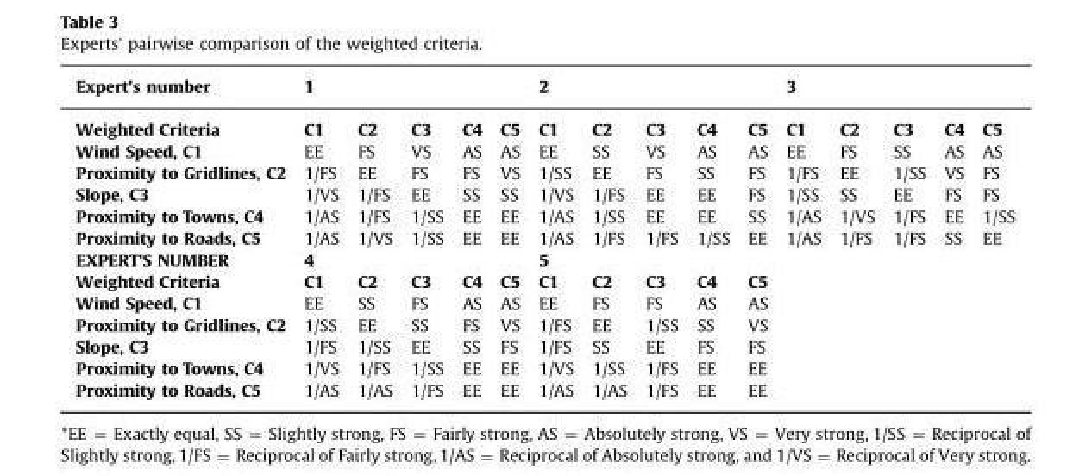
<table><thead><tr><td rowspan="2">Expert&#x27;s number Weighted Criteria</td><td colspan="5">1</td><td colspan="5">2</td><td colspan="5">3</td></tr><tr><td>C1</td><td>C2</td><td>C3</td><td>C4</td><td>C5</td><td>C1</td><td>C2</td><td>C3</td><td>C4</td><td>C5</td><td>C1</td><td>C2</td><td>C3</td><td>C4</td><td>C5</td></tr></thead><tbody><tr><td>Wind Speed, C1</td><td>EE</td><td>FS</td><td>VS</td><td>AS</td><td>AS</td><td>EE</td><td>SS</td><td>VS</td><td>AS</td><td>AS</td><td>EE</td><td>FS</td><td>SS</td><td>AS</td><td>AS</td></tr><tr><td>Proximity to Gridlines, C2</td><td>1/FS</td><td>EE</td><td>FS</td><td>FS</td><td>VS</td><td>1/SS</td><td>EE</td><td>FS</td><td>SS</td><td>FS</td><td>1/FS</td><td>EE</td><td>1/SS</td><td>VS</td><td>FS</td></tr><tr><td>Slope, C3</td><td>1/VS</td><td>1/FS</td><td>EE</td><td>SS</td><td>SS</td><td>1/VS</td><td>1/FS</td><td>EE</td><td>EE</td><td>FS</td><td>1/SS</td><td>SS</td><td>EE</td><td>FS</td><td>FS</td></tr><tr><td>Proximity to Towns, C4</td><td>1/AS</td><td>1/FS</td><td>1/SS</td><td>EE</td><td>EE</td><td>1/AS</td><td>1/SS</td><td>EE</td><td>EE</td><td>SS</td><td>1/AS</td><td>1/VS</td><td>1/FS</td><td>EE</td><td>1/SS</td></tr><tr><td>Proximity to Roads, C5</td><td>1/AS</td><td>1/VS</td><td>1/SS</td><td>EE</td><td>EE</td><td>1/AS</td><td>1/FS</td><td>1/FS</td><td>1/SS</td><td>EE</td><td>1/AS</td><td>1/FS</td><td>1/FS</td><td>SS</td><td>EE</td></tr><tr><td>EXPERT&#x27;S NUMBER</td><td colspan="5">4</td><td colspan="5">5</td><td></td><td></td><td></td><td></td><td></td></tr><tr><td>Weighted Criteria</td><td>C1</td><td>C2</td><td>C3</td><td>C4</td><td>C5</td><td>C1</td><td>C2</td><td>C3</td><td>C4</td><td>C5</td><td></td><td></td><td></td><td></td><td></td></tr><tr><td>Wind Speed, C1</td><td>EE</td><td>SS</td><td>FS</td><td>AS</td><td>AS</td><td>EE</td><td>FS</td><td>FS</td><td>AS</td><td>AS</td><td></td><td></td><td></td><td></td><td></td></tr><tr><td>Proximity to Gridlines, C2</td><td>1/SS</td><td>EE</td><td>SS</td><td>FS</td><td>VS</td><td>1/FS</td><td>EE</td><td>1/SS</td><td>SS</td><td>VS</td><td></td><td></td><td></td><td></td><td></td></tr><tr><td>Slope, C3</td><td>1/FS</td><td>1/SS</td><td>EE</td><td>SS</td><td>FS</td><td>1/FS</td><td>SS</td><td>EE</td><td>FS</td><td>FS</td><td></td><td></td><td></td><td></td><td></td></tr><tr><td>Proximity to Towns, C4</td><td>1/VS</td><td>1/FS</td><td>1/SS</td><td>EE</td><td>EE</td><td>1/VS</td><td>1/SS</td><td>1/FS</td><td>EE</td><td>EE</td><td></td><td></td><td></td><td></td><td></td></tr><tr><td>Proximity to Roads, C5</td><td>1/AS</td><td>1/AS</td><td>1/FS</td><td>EE</td><td>EE</td><td>1/AS</td><td>1/AS</td><td>1/FS</td><td>EE</td><td>EE</td><td></td><td></td><td></td><td></td><td></td></tr></tbody></table>